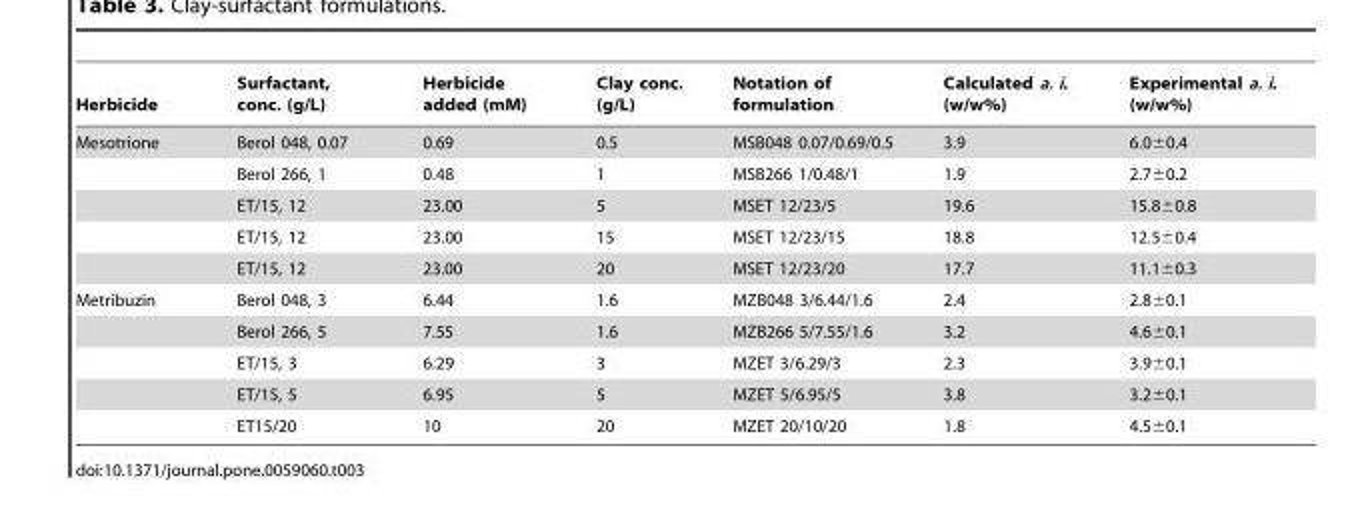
<table><thead><tr><td>Herbicide</td><td>Surfactant, conc. (g/L)</td><td>Herbicide added (mM)</td><td>Clay conc. (g/L)</td><td>Notation of formulation</td><td>Calculated a. i. (w/w%)</td><td>Experimental a. i. (w/w%)</td></tr></thead><tbody><tr><td rowspan="5">Mesotrione</td><td>Berol 048, 0.07</td><td>0.69</td><td>0.5</td><td>MSB048 0.07/0.69/0.5</td><td>3.9</td><td>6.0±0.4</td></tr><tr><td>Berol 266, 1</td><td>0.48</td><td>1</td><td>MSB266 1/0.48/1</td><td>1.9</td><td>2.7±0.2</td></tr><tr><td>ET/15, 12</td><td>23.00</td><td>5</td><td>MSET 12/23/5</td><td>19.6</td><td>15.8±0.8</td></tr><tr><td>ET/15, 12</td><td>23.00</td><td>15</td><td>MSET 12/23/15</td><td>18.8</td><td>12.5±0.4</td></tr><tr><td>ET/15, 12</td><td>23.00</td><td>20</td><td>MSET 12/23/20</td><td>17.7</td><td>11.1±0.3</td></tr><tr><td rowspan="5">Metribuzin</td><td>Berol 048, 3</td><td>6.44</td><td>1.6</td><td>MZB048 3/6.44/1.6</td><td>2.4</td><td>2.8±0.1</td></tr><tr><td>Berol 266, 5</td><td>7.55</td><td>1.6</td><td>MZB266 5/7.55/1.6</td><td>3.2</td><td>4.6±0.1</td></tr><tr><td>ET/15, 3</td><td>6.29</td><td>3</td><td>MZET 3/6.29/3</td><td>2.3</td><td>3.9±0.1</td></tr><tr><td>ET/15, 5</td><td>6.95</td><td>5</td><td>MZET 5/6.95/5</td><td>3.8</td><td>3.2±0.1</td></tr><tr><td>ET15/20</td><td>10</td><td>20</td><td>MZET 20/10/20</td><td>1.8</td><td>4.5±0.1</td></tr></tbody></table>